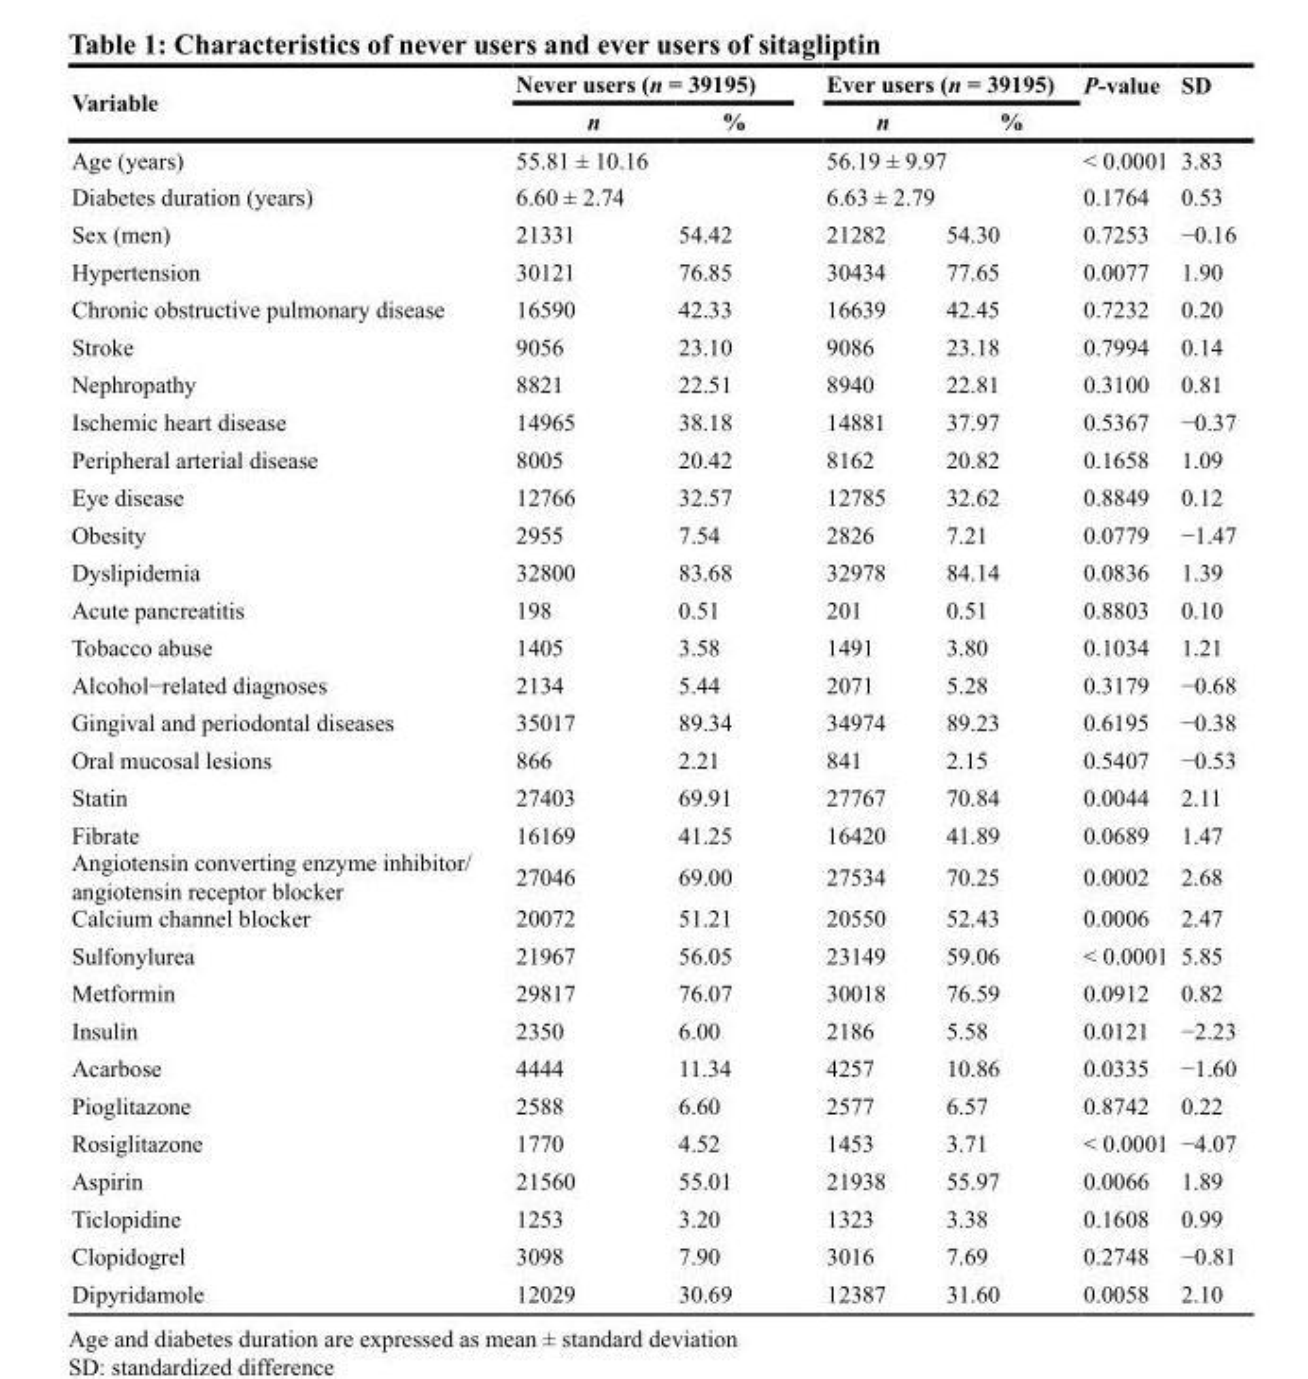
<table><thead><tr><td rowspan="2">Variable</td><td colspan="2">Never users (n = 39195)</td><td colspan="2">Ever users (n = 39195)</td><td rowspan="2">P-value</td><td rowspan="2">SD</td></tr><tr><td>n</td><td>%</td><td>n</td><td>%</td></tr></thead><tbody><tr><td>Age (years)</td><td colspan="2">55.81 ± 10.16</td><td colspan="2">56.19 ± 9.97</td><td>&lt; 0.0001</td><td>3.83</td></tr><tr><td>Diabetes duration (years)</td><td colspan="2">6.60 ± 2.74</td><td colspan="2">6.63 ± 2.79</td><td>0.1764</td><td>0.53</td></tr><tr><td>Sex (men)</td><td>21331</td><td>54.42</td><td>21282</td><td>54.30</td><td>0.7253</td><td>−0.16</td></tr><tr><td>Hypertension</td><td>30121</td><td>76.85</td><td>30434</td><td>77.65</td><td>0.0077</td><td>1.90</td></tr><tr><td>Chronic obstructive pulmonary disease</td><td>16590</td><td>42.33</td><td>16639</td><td>42.45</td><td>0.7232</td><td>0.20</td></tr><tr><td>Stroke</td><td>9056</td><td>23.10</td><td>9086</td><td>23.18</td><td>0.7994</td><td>0.14</td></tr><tr><td>Nephropathy</td><td>8821</td><td>22.51</td><td>8940</td><td>22.81</td><td>0.3100</td><td>0.81</td></tr><tr><td>Ischemic heart disease</td><td>14965</td><td>38.18</td><td>14881</td><td>37.97</td><td>0.5367</td><td>−0.37</td></tr><tr><td>Peripheral arterial disease</td><td>8005</td><td>20.42</td><td>8162</td><td>20.82</td><td>0.1658</td><td>1.09</td></tr><tr><td>Eye disease</td><td>12766</td><td>32.57</td><td>12785</td><td>32.62</td><td>0.8849</td><td>0.12</td></tr><tr><td>Obesity</td><td>2955</td><td>7.54</td><td>2826</td><td>7.21</td><td>0.0779</td><td>−1.47</td></tr><tr><td>Dyslipidemia</td><td>32800</td><td>83.68</td><td>32978</td><td>84.14</td><td>0.0836</td><td>1.39</td></tr><tr><td>Acute pancreatitis</td><td>198</td><td>0.51</td><td>201</td><td>0.51</td><td>0.8803</td><td>0.10</td></tr><tr><td>Tobacco abuse</td><td>1405</td><td>3.58</td><td>1491</td><td>3.80</td><td>0.1034</td><td>1.21</td></tr><tr><td>Alcohol−related diagnoses</td><td>2134</td><td>5.44</td><td>2071</td><td>5.28</td><td>0.3179</td><td>−0.68</td></tr><tr><td>Gingival and periodontal diseases</td><td>35017</td><td>89.34</td><td>34974</td><td>89.23</td><td>0.6195</td><td>−0.38</td></tr><tr><td>Oral mucosal lesions</td><td>866</td><td>2.21</td><td>841</td><td>2.15</td><td>0.5407</td><td>−0.53</td></tr><tr><td>Statin</td><td>27403</td><td>69.91</td><td>27767</td><td>70.84</td><td>0.0044</td><td>2.11</td></tr><tr><td>Fibrate</td><td>16169</td><td>41.25</td><td>16420</td><td>41.89</td><td>0.0689</td><td>1.47</td></tr><tr><td>Angiotensin converting enzyme inhibitor/ angiotensin receptor blocker</td><td>27046</td><td>69.00</td><td>27534</td><td>70.25</td><td>0.0002</td><td>2.68</td></tr><tr><td>Calcium channel blocker</td><td>20072</td><td>51.21</td><td>20550</td><td>52.43</td><td>0.0006</td><td>2.47</td></tr><tr><td>Sulfonylurea</td><td>21967</td><td>56.05</td><td>23149</td><td>59.06</td><td>&lt; 0.0001</td><td>5.85</td></tr><tr><td>Metformin</td><td>29817</td><td>76.07</td><td>30018</td><td>76.59</td><td>0.0912</td><td>0.82</td></tr><tr><td>Insulin</td><td>2350</td><td>6.00</td><td>2186</td><td>5.58</td><td>0.0121</td><td>−2.23</td></tr><tr><td>Acarbose</td><td>4444</td><td>11.34</td><td>4257</td><td>10.86</td><td>0.0335</td><td>−1.60</td></tr><tr><td>Pioglitazone</td><td>2588</td><td>6.60</td><td>2577</td><td>6.57</td><td>0.8742</td><td>0.22</td></tr><tr><td>Rosiglitazone</td><td>1770</td><td>4.52</td><td>1453</td><td>3.71</td><td>&lt; 0.0001</td><td>−4.07</td></tr><tr><td>Aspirin</td><td>21560</td><td>55.01</td><td>21938</td><td>55.97</td><td>0.0066</td><td>1.89</td></tr><tr><td>Ticlopidine</td><td>1253</td><td>3.20</td><td>1323</td><td>3.38</td><td>0.1608</td><td>0.99</td></tr><tr><td>Clopidogrel</td><td>3098</td><td>7.90</td><td>3016</td><td>7.69</td><td>0.2748</td><td>−0.81</td></tr><tr><td>Dipyridamole</td><td>12029</td><td>30.69</td><td>12387</td><td>31.60</td><td>0.0058</td><td>2.10</td></tr></tbody></table>